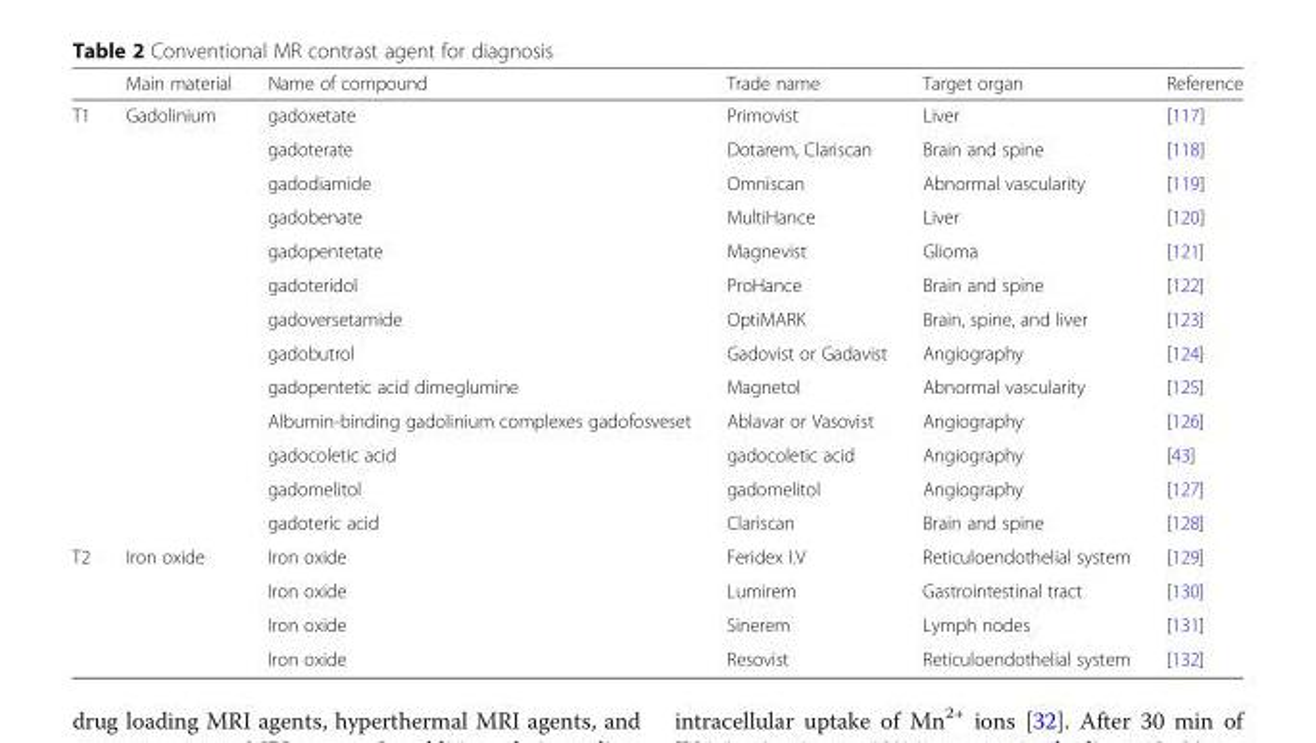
<table><thead><tr><td></td><td>Main material</td><td>Name of compound</td><td>Trade name</td><td>Target organ</td><td>Reference</td></tr></thead><tbody><tr><td rowspan="13">T1</td><td rowspan="13">Gadolinium</td><td>gadoxetate</td><td>Primovist</td><td>Liver</td><td>[117]</td></tr><tr><td>gadoterate</td><td>Dotarem, Clariscan</td><td>Brain and spine</td><td>[118]</td></tr><tr><td>gadodiamide</td><td>Omniscan</td><td>Abnormal vascularity</td><td>[119]</td></tr><tr><td>gadobenate</td><td>MultiHance</td><td>Liver</td><td>[120]</td></tr><tr><td>gadopentetate</td><td>Magnevist</td><td>Glioma</td><td>[121]</td></tr><tr><td>gadoteridol</td><td>ProHance</td><td>Brain and spine</td><td>[122]</td></tr><tr><td>gadoversetamide</td><td>OptiMARK</td><td>Brain, spine, and liver</td><td>[123]</td></tr><tr><td>gadobutrol</td><td>Gadovist or Gadavist</td><td>Angiography</td><td>[124]</td></tr><tr><td>gadopentetic acid dimeglumine</td><td>Magnetol</td><td>Abnormal vascularity</td><td>[125]</td></tr><tr><td>Albumin-binding gadolinium complexes gadofosveset</td><td>Ablavar or Vasovist</td><td>Angiography</td><td>[126]</td></tr><tr><td>gadocoletic acid</td><td>gadocoletic acid</td><td>Angiography</td><td>[43]</td></tr><tr><td>gadomelitol</td><td>gadomelitol</td><td>Angiography</td><td>[127]</td></tr><tr><td>gadoteric acid</td><td>Clariscan</td><td>Brain and spine</td><td>[128]</td></tr><tr><td rowspan="4">T2</td><td rowspan="4">Iron oxide</td><td>Iron oxide</td><td>Feridex I.V</td><td>Reticuloendothelial system</td><td>[129]</td></tr><tr><td>Iron oxide</td><td>Lumirem</td><td>Gastrointestinal tract</td><td>[130]</td></tr><tr><td>Iron oxide</td><td>Sinerem</td><td>Lymph nodes</td><td>[131]</td></tr><tr><td>Iron oxide</td><td>Resovist</td><td>Reticuloendothelial system</td><td>[132]</td></tr></tbody></table>